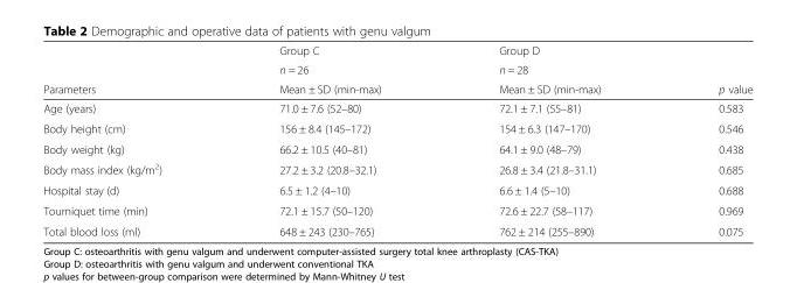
<table><thead><tr><td rowspan="3">Parameters</td><td rowspan="3">Group C n = 26 Mean ± SD (min-max)</td><td rowspan="3">Group D n = 28 Mean ± SD (min-max)</td><td rowspan="3">p value</td></tr><tr></tr><tr></tr></thead><tbody><tr><td>Age (years)</td><td>71.0 ± 7.6 (52–80)</td><td>72.1 ± 7.1 (55–81)</td><td>0.583</td></tr><tr><td>Body height (cm)</td><td>156 ± 8.4 (145–172)</td><td>154 ± 6.3 (147–170)</td><td>0.546</td></tr><tr><td>Body weight (kg)</td><td>66.2 ± 10.5 (40–81)</td><td>64.1 ± 9.0 (48–79)</td><td>0.438</td></tr><tr><td>Body mass index (kg/m<sup>2</sup>)</td><td>27.2 ± 3.2 (20.8–32.1)</td><td>26.8 ± 3.4 (21.8–31.1)</td><td>0.685</td></tr><tr><td>Hospital stay (d)</td><td>6.5 ± 1.2 (4–10)</td><td>6.6 ± 1.4 (5–10)</td><td>0.688</td></tr><tr><td>Tourniquet time (min)</td><td>72.1 ± 15.7 (50–120)</td><td>72.6 ± 22.7 (58–117)</td><td>0.969</td></tr><tr><td>Total blood loss (ml)</td><td>648 ± 243 (230–765)</td><td>762 ± 214 (255–890)</td><td>0.075</td></tr></tbody></table>